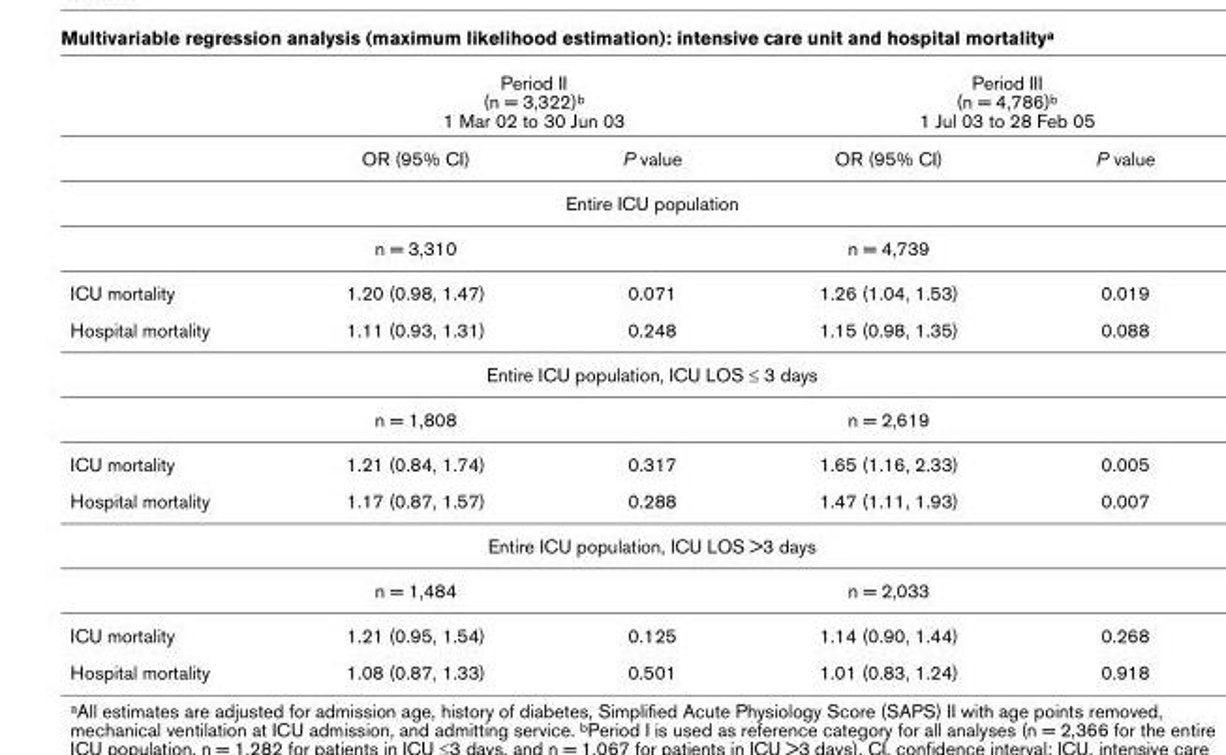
<table><thead><tr><td rowspan="2"></td><td colspan="2">Period II (n = 3,322)<sup>b</sup> 1 Mar 02 to 30 Jun 03</td><td colspan="2">Period III (n = 4,786)<sup>b</sup> 1 Jul 03 to 28 Feb 05</td></tr><tr><td>OR (95% CI)</td><td>P value</td><td>OR (95% CI)</td><td>P value</td></tr></thead><tbody><tr><td colspan="5">Entire ICU population</td></tr><tr><td></td><td>n = 3,310</td><td></td><td>n = 4,739</td><td></td></tr><tr><td>ICU mortality</td><td>1.20 (0.98, 1.47)</td><td>0.071</td><td>1.26 (1.04, 1.53)</td><td>0.019</td></tr><tr><td>Hospital mortality</td><td>1.11 (0.93, 1.31)</td><td>0.248</td><td>1.15 (0.98, 1.35)</td><td>0.088</td></tr><tr><td colspan="5">Entire ICU population, ICU LOS ≤ 3 days</td></tr><tr><td></td><td>n = 1,808</td><td></td><td>n = 2,619</td><td></td></tr><tr><td>ICU mortality</td><td>1.21 (0.84, 1.74)</td><td>0.317</td><td>1.65 (1.16, 2.33)</td><td>0.005</td></tr><tr><td>Hospital mortality</td><td>1.17 (0.87, 1.57)</td><td>0.288</td><td>1.47 (1.11, 1.93)</td><td>0.007</td></tr><tr><td colspan="5">Entire ICU population, ICU LOS &gt;3 days</td></tr><tr><td></td><td>n = 1,484</td><td></td><td>n = 2,033</td><td></td></tr><tr><td>ICU mortality</td><td>1.21 (0.95, 1.54)</td><td>0.125</td><td>1.14 (0.90, 1.44)</td><td>0.268</td></tr><tr><td>Hospital mortality</td><td>1.08 (0.87, 1.33)</td><td>0.501</td><td>1.01 (0.83, 1.24)</td><td>0.918</td></tr></tbody></table>